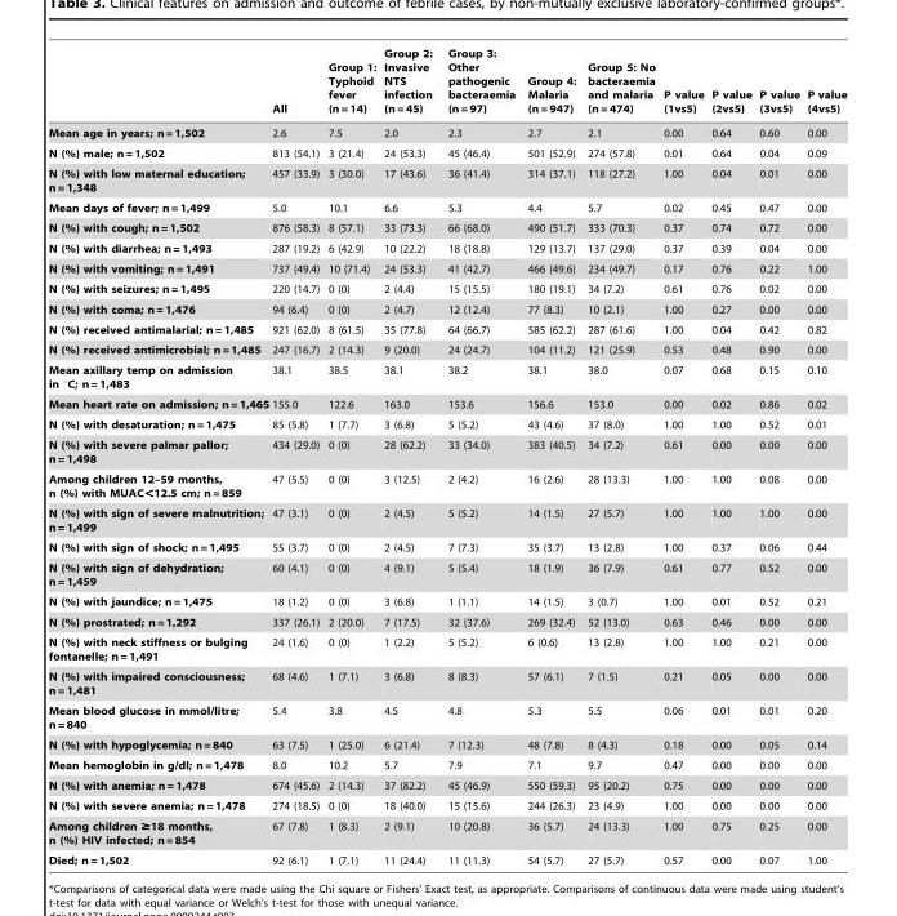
<table><thead><tr><td></td><td>All</td><td>Group 1: Typhoid fever (n = 14)</td><td>Group 2: Invasive NTS infection (n = 45)</td><td>Group 3: Other pathogenic bacteraemia (n = 97)</td><td>Group 4: Malaria (n = 947)</td><td>Group 5: No bacteraemia and malaria (n = 474)</td><td>P value (1vs5)</td><td>P value (2vs5)</td><td>P value (3vs5)</td><td>P value (4vs5)</td></tr></thead><tbody><tr><td>Mean age in years; n = 1,502</td><td>2.6</td><td>7.5</td><td>2.0</td><td>2.3</td><td>2.7</td><td>2.1</td><td>0.00</td><td>0.64</td><td>0.60</td><td>0.00</td></tr><tr><td>N (%) male; n = 1,502</td><td>813 (54.1)</td><td>3 (21.4)</td><td>24 (53.3)</td><td>45 (46.4)</td><td>501 (52.9)</td><td>274 (57.8)</td><td>0.01</td><td>0.64</td><td>0.04</td><td>0.09</td></tr><tr><td>N (%) with low maternal education; n = 1,348</td><td>457 (33.9)</td><td>3 (30.0)</td><td>17 (43.6)</td><td>36 (41.4)</td><td>314 (37.1)</td><td>118 (27.2)</td><td>1.00</td><td>0.04</td><td>0.01</td><td>0.00</td></tr><tr><td>Mean days of fever; n = 1,499</td><td>5.0</td><td>10.1</td><td>6.6</td><td>5.3</td><td>4.4</td><td>5.7</td><td>0.02</td><td>0.45</td><td>0.47</td><td>0.00</td></tr><tr><td>N (%) with cough; n = 1,502</td><td>876 (58.3)</td><td>8 (57.1)</td><td>33 (73.3)</td><td>66 (68.0)</td><td>490 (51.7)</td><td>333 (70.3)</td><td>0.37</td><td>0.74</td><td>0.72</td><td>0.00</td></tr><tr><td>N (%) with diarrhea; n = 1,493</td><td>287 (19.2)</td><td>6 (42.9)</td><td>10 (22.2)</td><td>18 (18.8)</td><td>129 (13.7)</td><td>137 (29.0)</td><td>0.37</td><td>0.39</td><td>0.04</td><td>0.00</td></tr><tr><td>N (%) with vomiting; n = 1,491</td><td>737 (49.4)</td><td>10 (71.4)</td><td>24 (53.3)</td><td>41 (42.7)</td><td>466 (49.6)</td><td>234 (49.7)</td><td>0.17</td><td>0.76</td><td>0.22</td><td>1.00</td></tr><tr><td>N (%) with seizures; n = 1,495</td><td>220 (14.7)</td><td>0 (0)</td><td>2 (4.4)</td><td>15 (15.5)</td><td>180 (19.1)</td><td>34 (7.2)</td><td>0.61</td><td>0.76</td><td>0.02</td><td>0.00</td></tr><tr><td>N (%) with coma; n = 1,476</td><td>94 (6.4)</td><td>0 (0)</td><td>2 (4.7)</td><td>12 (12.4)</td><td>77 (8.3)</td><td>10 (2.1)</td><td>1.00</td><td>0.27</td><td>0.00</td><td>0.00</td></tr><tr><td>N (%) received antimalarial; n = 1,485</td><td>921 (62.0)</td><td>8 (61.5)</td><td>35 (77.8)</td><td>64 (66.7)</td><td>585 (62.2)</td><td>287 (61.6)</td><td>1.00</td><td>0.04</td><td>0.42</td><td>0.82</td></tr><tr><td>N (%) received antimicrobial; n = 1,485</td><td>247 (16.7)</td><td>2 (14.3)</td><td>9 (20.0)</td><td>24 (24.7)</td><td>104 (11.2)</td><td>121 (25.9)</td><td>0.53</td><td>0.48</td><td>0.90</td><td>0.00</td></tr><tr><td>Mean axillary temp on admission in °C; n = 1,483</td><td>38.1</td><td>38.5</td><td>38.1</td><td>38.2</td><td>38.1</td><td>38.0</td><td>0.07</td><td>0.68</td><td>0.15</td><td>0.10</td></tr><tr><td>Mean heart rate on admission; n = 1,465</td><td>155.0</td><td>122.6</td><td>163.0</td><td>153.6</td><td>156.6</td><td>153.0</td><td>0.00</td><td>0.02</td><td>0.86</td><td>0.02</td></tr><tr><td>N (%) with desaturation; n = 1,475</td><td>85 (5.8)</td><td>1 (7.7)</td><td>3 (6.8)</td><td>5 (5.2)</td><td>43 (4.6)</td><td>37 (8.0)</td><td>1.00</td><td>1.00</td><td>0.52</td><td>0.01</td></tr><tr><td>N (%) with severe palmar pallor; n = 1,498</td><td>434 (29.0)</td><td>0 (0)</td><td>28 (62.2)</td><td>33 (34.0)</td><td>383 (40.5)</td><td>34 (7.2)</td><td>0.61</td><td>0.00</td><td>0.00</td><td>0.00</td></tr><tr><td>Among children 12–59 months, n (%) with MUAC&lt;12.5 cm; n = 859</td><td>47 (5.5)</td><td>0 (0)</td><td>3 (12.5)</td><td>2 (4.2)</td><td>16 (2.6)</td><td>28 (13.3)</td><td>1.00</td><td>1.00</td><td>0.08</td><td>0.00</td></tr><tr><td>N (%) with sign of severe malnutrition; n = 1,499</td><td>47 (3.1)</td><td>0 (0)</td><td>2 (4.5)</td><td>5 (5.2)</td><td>14 (1.5)</td><td>27 (5.7)</td><td>1.00</td><td>1.00</td><td>1.00</td><td>0.00</td></tr><tr><td>N (%) with sign of shock; n = 1,495</td><td>55 (3.7)</td><td>0 (0)</td><td>2 (4.5)</td><td>7 (7.3)</td><td>35 (3.7)</td><td>13 (2.8)</td><td>1.00</td><td>0.37</td><td>0.06</td><td>0.44</td></tr><tr><td>N (%) with sign of dehydration; n = 1,459</td><td>60 (4.1)</td><td>0 (0)</td><td>4 (9.1)</td><td>5 (5.4)</td><td>18 (1.9)</td><td>36 (7.9)</td><td>0.61</td><td>0.77</td><td>0.52</td><td>0.00</td></tr><tr><td>N (%) with jaundice; n = 1,475</td><td>18 (1.2)</td><td>0 (0)</td><td>3 (6.8)</td><td>1 (1.1)</td><td>14 (1.5)</td><td>3 (0.7)</td><td>1.00</td><td>0.01</td><td>0.52</td><td>0.21</td></tr><tr><td>N (%) prostrated; n = 1,292</td><td>337 (26.1)</td><td>2 (20.0)</td><td>7 (17.5)</td><td>32 (37.6)</td><td>269 (32.4)</td><td>52 (13.0)</td><td>0.63</td><td>0.46</td><td>0.00</td><td>0.00</td></tr><tr><td>N (%) with neck stiffness or bulging fontanelle; n = 1,491</td><td>24 (1.6)</td><td>0 (0)</td><td>1 (2.2)</td><td>5 (5.2)</td><td>6 (0.6)</td><td>13 (2.8)</td><td>1.00</td><td>1.00</td><td>0.21</td><td>0.00</td></tr><tr><td>N (%) with impaired consciousness; n = 1,481</td><td>68 (4.6)</td><td>1 (7.1)</td><td>3 (6.8)</td><td>8 (8.3)</td><td>57 (6.1)</td><td>7 (1.5)</td><td>0.21</td><td>0.05</td><td>0.00</td><td>0.00</td></tr><tr><td>Mean blood glucose in mmol/litre; n = 840</td><td>5.4</td><td>3.8</td><td>4.5</td><td>4.8</td><td>5.3</td><td>5.5</td><td>0.06</td><td>0.01</td><td>0.01</td><td>0.20</td></tr><tr><td>N (%) with hypoglycemia; n = 840</td><td>63 (7.5)</td><td>1 (25.0)</td><td>6 (21.4)</td><td>7 (12.3)</td><td>48 (7.8)</td><td>8 (4.3)</td><td>0.18</td><td>0.00</td><td>0.05</td><td>0.14</td></tr><tr><td>Mean hemoglobin in g/dl; n = 1,478</td><td>8.0</td><td>10.2</td><td>5.7</td><td>7.9</td><td>7.1</td><td>9.7</td><td>0.47</td><td>0.00</td><td>0.00</td><td>0.00</td></tr><tr><td>N (%) with anemia; n = 1,478</td><td>674 (45.6)</td><td>2 (14.3)</td><td>37 (82.2)</td><td>45 (46.9)</td><td>550 (59.3)</td><td>95 (20.2)</td><td>0.75</td><td>0.00</td><td>0.00</td><td>0.00</td></tr><tr><td>N (%) with severe anemia; n = 1,478</td><td>274 (18.5)</td><td>0 (0)</td><td>18 (40.0)</td><td>15 (15.6)</td><td>244 (26.3)</td><td>23 (4.9)</td><td>1.00</td><td>0.00</td><td>0.00</td><td>0.00</td></tr><tr><td>Among children ≥18 months, n (%) HIV infected; n = 854</td><td>67 (7.8)</td><td>1 (8.3)</td><td>2 (9.1)</td><td>10 (20.8)</td><td>36 (5.7)</td><td>24 (13.3)</td><td>1.00</td><td>0.75</td><td>0.25</td><td>0.00</td></tr><tr><td>Died; n = 1,502</td><td>92 (6.1)</td><td>1 (7.1)</td><td>11 (24.4)</td><td>11 (11.3)</td><td>54 (5.7)</td><td>27 (5.7)</td><td>0.57</td><td>0.00</td><td>0.07</td><td>1.00</td></tr></tbody></table>